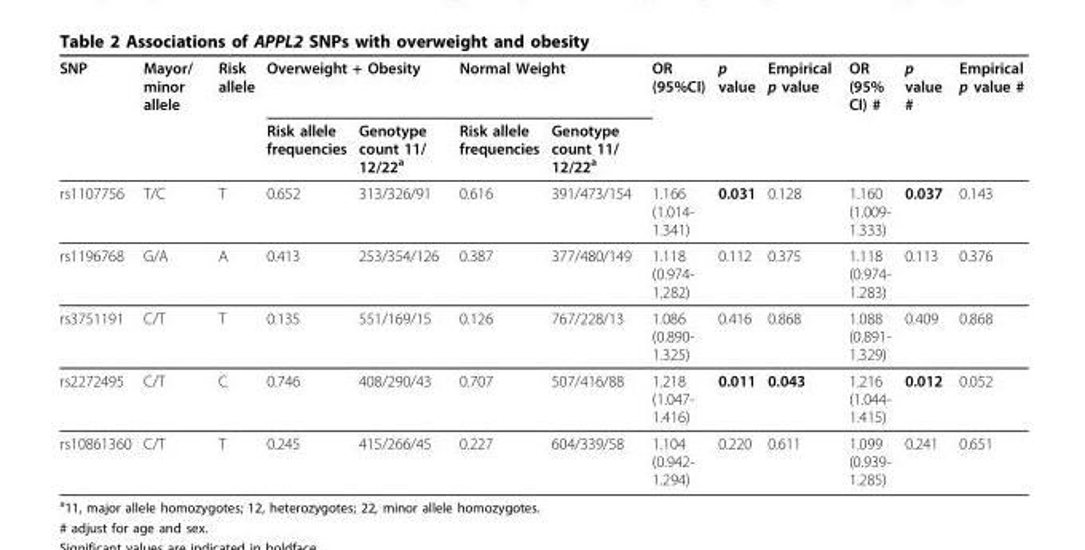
<table><thead><tr><td rowspan="2">SNP</td><td rowspan="2">Mayor/ minor allele</td><td rowspan="2">Risk allele</td><td colspan="2">Overweight + Obesity</td><td colspan="2">Normal Weight</td><td rowspan="2">OR (95%CI)</td><td rowspan="2">p value</td><td rowspan="2">Empirical p value</td><td rowspan="2">OR (95% CI) #</td><td rowspan="2">p value #</td><td rowspan="2">Empirical p value #</td></tr><tr><td>Risk allele frequencies</td><td>Genotype count 11/ 12/22<sup>a</sup></td><td>Risk allele frequencies</td><td>Genotype count 11/ 12/22<sup>a</sup></td></tr></thead><tbody><tr><td>rs1107756</td><td>T/C</td><td>T</td><td>0.652</td><td>313/326/91</td><td>0.616</td><td>391/473/154</td><td>1.166 (1.014- 1.341)</td><td>0.031</td><td>0.128</td><td>1.160 (1.009- 1.333)</td><td>0.037</td><td>0.143</td></tr><tr><td>rs1196768</td><td>G/A</td><td>A</td><td>0.413</td><td>253/354/126</td><td>0.387</td><td>377/480/149</td><td>1.118 (0.974- 1.282)</td><td>0.112</td><td>0.375</td><td>1.118 (0.974- 1.283)</td><td>0.113</td><td>0.376</td></tr><tr><td>rs3751191</td><td>C/T</td><td>T</td><td>0.135</td><td>551/169/15</td><td>0.126</td><td>767/228/13</td><td>1.086 (0.890- 1.325)</td><td>0.416</td><td>0.868</td><td>1.088 (0.891- 1.329)</td><td>0.409</td><td>0.868</td></tr><tr><td>rs2272495</td><td>C/T</td><td>C</td><td>0.746</td><td>408/290/43</td><td>0.707</td><td>507/416/88</td><td>1.218 (1.047- 1.416)</td><td>0.011</td><td>0.043</td><td>1.216 (1.044- 1.415)</td><td>0.012</td><td>0.052</td></tr><tr><td>rs10861360</td><td>C/T</td><td>T</td><td>0.245</td><td>415/266/45</td><td>0.227</td><td>604/339/58</td><td>1.104 (0.942- 1.294)</td><td>0.220</td><td>0.611</td><td>1.099 (0.939- 1.285)</td><td>0.241</td><td>0.651</td></tr></tbody></table>